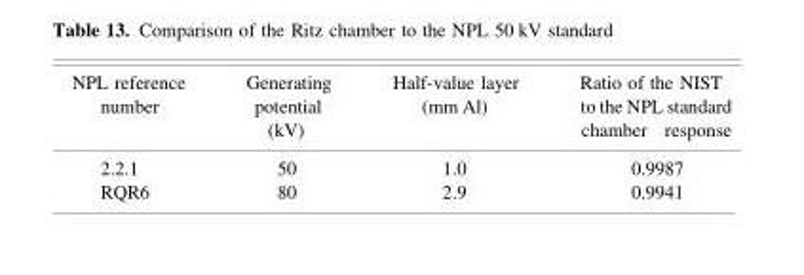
<table><thead><tr><td>NPL reference number</td><td>Generating potential (kV)</td><td>Half-value layer (mm Al)</td><td>Ratio of the NIST to the NPL standard chamber response</td></tr></thead><tbody><tr><td>2.2.1</td><td>50</td><td>1.0</td><td>0.9987</td></tr><tr><td>RQR6</td><td>80</td><td>2.9</td><td>0.9941</td></tr></tbody></table>